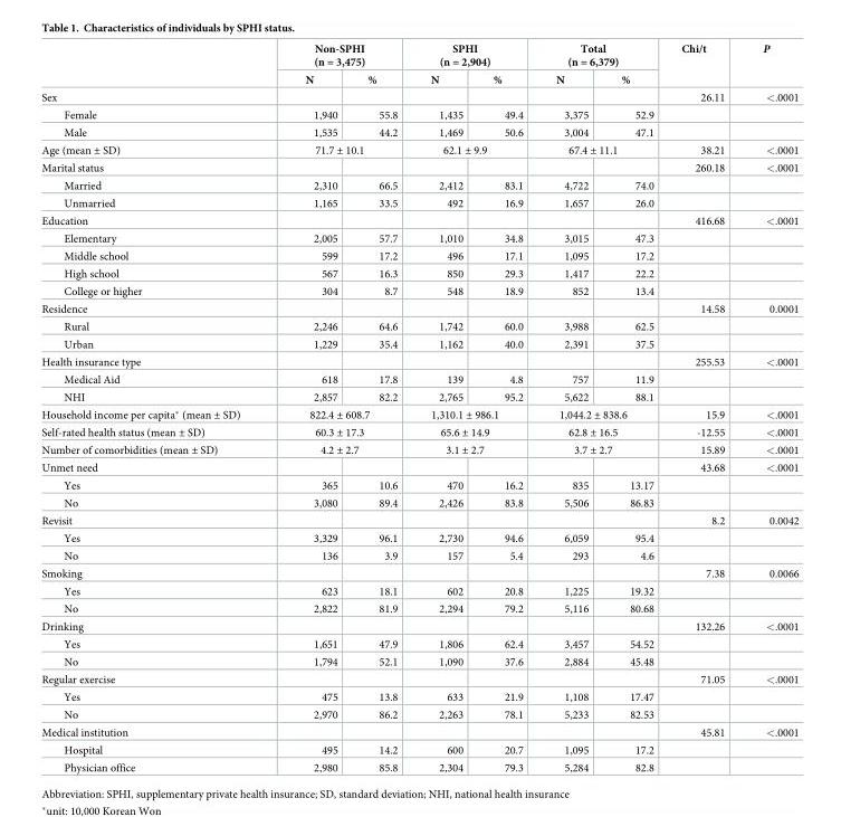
<table><thead><tr><td rowspan="2"></td><td colspan="2">Non-SPHI (n = 3,475)</td><td colspan="2">SPHI (n = 2,904)</td><td colspan="2">Total (n = 6,379)</td><td rowspan="2">Chi/t</td><td rowspan="2">P</td></tr><tr><td>N</td><td>%</td><td>N</td><td>%</td><td>N</td><td>%</td></tr></thead><tbody><tr><td>Sex</td><td></td><td></td><td></td><td></td><td></td><td></td><td>26.11</td><td>&lt;.0001</td></tr><tr><td>Female</td><td>1,940</td><td>55.8</td><td>1,435</td><td>49.4</td><td>3,375</td><td>52.9</td><td></td><td></td></tr><tr><td>Male</td><td>1,535</td><td>44.2</td><td>1,469</td><td>50.6</td><td>3,004</td><td>47.1</td><td></td><td></td></tr><tr><td>Age (mean ± SD)</td><td colspan="2">71.7 ± 10.1</td><td colspan="2">62.1 ± 9.9</td><td colspan="2">67.4 ± 11.1</td><td>38.21</td><td>&lt;.0001</td></tr><tr><td>Marital status</td><td></td><td></td><td></td><td></td><td></td><td></td><td>260.18</td><td>&lt;.0001</td></tr><tr><td>Married</td><td>2,310</td><td>66.5</td><td>2,412</td><td>83.1</td><td>4,722</td><td>74.0</td><td></td><td></td></tr><tr><td>Unmarried</td><td>1,165</td><td>33.5</td><td>492</td><td>16.9</td><td>1,657</td><td>26.0</td><td></td><td></td></tr><tr><td>Education</td><td></td><td></td><td></td><td></td><td></td><td></td><td>416.68</td><td>&lt;.0001</td></tr><tr><td>Elementary</td><td>2,005</td><td>57.7</td><td>1,010</td><td>34.8</td><td>3,015</td><td>47.3</td><td></td><td></td></tr><tr><td>Middle school</td><td>599</td><td>17.2</td><td>496</td><td>17.1</td><td>1,095</td><td>17.2</td><td></td><td></td></tr><tr><td>High school</td><td>567</td><td>16.3</td><td>850</td><td>29.3</td><td>1,417</td><td>22.2</td><td></td><td></td></tr><tr><td>College or higher</td><td>304</td><td>8.7</td><td>548</td><td>18.9</td><td>852</td><td>13.4</td><td></td><td></td></tr><tr><td>Residence</td><td></td><td></td><td></td><td></td><td></td><td></td><td>14.58</td><td>0.0001</td></tr><tr><td>Rural</td><td>2,246</td><td>64.6</td><td>1,742</td><td>60.0</td><td>3,988</td><td>62.5</td><td></td><td></td></tr><tr><td>Urban</td><td>1,229</td><td>35.4</td><td>1,162</td><td>40.0</td><td>2,391</td><td>37.5</td><td></td><td></td></tr><tr><td>Health insurance type</td><td></td><td></td><td></td><td></td><td></td><td></td><td>255.53</td><td>&lt;.0001</td></tr><tr><td>Medical Aid</td><td>618</td><td>17.8</td><td>139</td><td>4.8</td><td>757</td><td>11.9</td><td></td><td></td></tr><tr><td>NHI</td><td>2,857</td><td>82.2</td><td>2,765</td><td>95.2</td><td>5,622</td><td>88.1</td><td></td><td></td></tr><tr><td>Household income per capita* (mean ± SD)</td><td colspan="2">822.4 ± 608.7</td><td colspan="2">1,310.1 ± 986.1</td><td colspan="2">1,044.2 ± 838.6</td><td>15.9</td><td>&lt;.0001</td></tr><tr><td>Self-rated health status (mean ± SD)</td><td colspan="2">60.3 ± 17.3</td><td colspan="2">65.6 ± 14.9</td><td colspan="2">62.8 ± 16.5</td><td>-12.55</td><td>&lt;.0001</td></tr><tr><td>Number of comorbidities (mean ± SD)</td><td colspan="2">4.2 ± 2.7</td><td colspan="2">3.1 ± 2.7</td><td colspan="2">3.7 ± 2.7</td><td>15.89</td><td>&lt;.0001</td></tr><tr><td>Unmet need</td><td></td><td></td><td></td><td></td><td></td><td></td><td>43.68</td><td>&lt;.0001</td></tr><tr><td>Yes</td><td>365</td><td>10.6</td><td>470</td><td>16.2</td><td>835</td><td>13.17</td><td></td><td></td></tr><tr><td>No</td><td>3,080</td><td>89.4</td><td>2,426</td><td>83.8</td><td>5,506</td><td>86.83</td><td></td><td></td></tr><tr><td>Revisit</td><td></td><td></td><td></td><td></td><td></td><td></td><td>8.2</td><td>0.0042</td></tr><tr><td>Yes</td><td>3,329</td><td>96.1</td><td>2,730</td><td>94.6</td><td>6,059</td><td>95.4</td><td></td><td></td></tr><tr><td>No</td><td>136</td><td>3.9</td><td>157</td><td>5.4</td><td>293</td><td>4.6</td><td></td><td></td></tr><tr><td>Smoking</td><td></td><td></td><td></td><td></td><td></td><td></td><td>7.38</td><td>0.0066</td></tr><tr><td>Yes</td><td>623</td><td>18.1</td><td>602</td><td>20.8</td><td>1,225</td><td>19.32</td><td></td><td></td></tr><tr><td>No</td><td>2,822</td><td>81.9</td><td>2,294</td><td>79.2</td><td>5,116</td><td>80.68</td><td></td><td></td></tr><tr><td>Drinking</td><td></td><td></td><td></td><td></td><td></td><td></td><td>132.26</td><td>&lt;.0001</td></tr><tr><td>Yes</td><td>1,651</td><td>47.9</td><td>1,806</td><td>62.4</td><td>3,457</td><td>54.52</td><td></td><td></td></tr><tr><td>No</td><td>1,794</td><td>52.1</td><td>1,090</td><td>37.6</td><td>2,884</td><td>45.48</td><td></td><td></td></tr><tr><td>Regular exercise</td><td></td><td></td><td></td><td></td><td></td><td></td><td>71.05</td><td>&lt;.0001</td></tr><tr><td>Yes</td><td>475</td><td>13.8</td><td>633</td><td>21.9</td><td>1,108</td><td>17.47</td><td></td><td></td></tr><tr><td>No</td><td>2,970</td><td>86.2</td><td>2,263</td><td>78.1</td><td>5,233</td><td>82.53</td><td></td><td></td></tr><tr><td>Medical institution</td><td></td><td></td><td></td><td></td><td></td><td></td><td>45.81</td><td>&lt;.0001</td></tr><tr><td>Hospital</td><td>495</td><td>14.2</td><td>600</td><td>20.7</td><td>1,095</td><td>17.2</td><td></td><td></td></tr><tr><td>Physician office</td><td>2,980</td><td>85.8</td><td>2,304</td><td>79.3</td><td>5,284</td><td>82.8</td><td></td><td></td></tr></tbody></table>